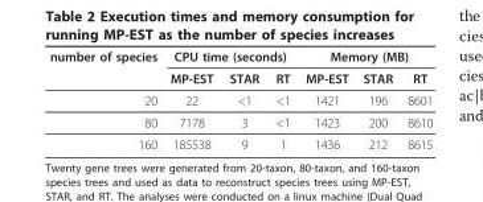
<table><thead><tr><td rowspan="2">number of species</td><td colspan="3">CPU time (seconds)</td><td colspan="3">Memory (MB)</td></tr><tr><td>MP-EST</td><td>STAR</td><td>RT</td><td>MP-EST</td><td>STAR</td><td>RT</td></tr></thead><tbody><tr><td>20</td><td>22</td><td>&lt;1</td><td>&lt;1</td><td>1421</td><td>196</td><td>8601</td></tr><tr><td>80</td><td>7178</td><td>3</td><td>&lt;1</td><td>1423</td><td>200</td><td>8610</td></tr><tr><td>160</td><td>185538</td><td>9</td><td>1</td><td>1436</td><td>212</td><td>8615</td></tr></tbody></table>